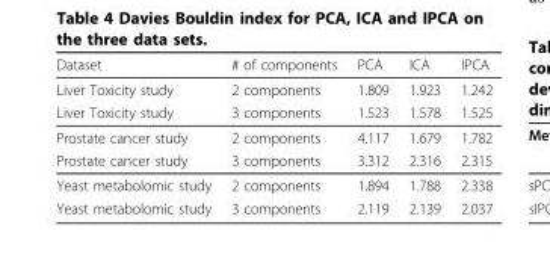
<table><thead><tr><td>Dataset</td><td># of components</td><td>PCA</td><td>ICA</td><td>IPCA</td></tr></thead><tbody><tr><td>Liver Toxicity study</td><td>2 components</td><td>1.809</td><td>1.923</td><td>1.242</td></tr><tr><td>Liver Toxicity study</td><td>3 components</td><td>1.523</td><td>1.578</td><td>1.525</td></tr><tr><td>Prostate cancer study</td><td>2 components</td><td>4.117</td><td>1.679</td><td>1.782</td></tr><tr><td>Prostate cancer study</td><td>3 components</td><td>3.312</td><td>2.316</td><td>2.315</td></tr><tr><td>Yeast metabolomic study</td><td>2 components</td><td>1.894</td><td>1.788</td><td>2.338</td></tr><tr><td>Yeast metabolomic study</td><td>3 components</td><td>2.119</td><td>2.139</td><td>2.037</td></tr></tbody></table>